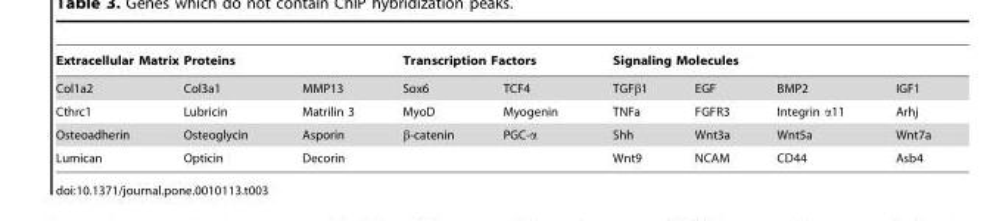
<table><thead><tr><td colspan="3">Extracellular Matrix Proteins</td><td colspan="2">Transcription Factors</td><td colspan="4">Signaling Molecules</td></tr><tr><td>Col1a2</td><td>Col3a1</td><td>MMP13</td><td>Sox6</td><td>TCF4</td><td>TGFβ1</td><td>EGF</td><td>BMP2</td><td>IGF1</td></tr></thead><tbody><tr><td>Cthrc1</td><td>Lubricin</td><td>Matrilin 3</td><td>MyoD</td><td>Myogenin</td><td>TNFa</td><td>FGFR3</td><td>Integrin α11</td><td>Arhj</td></tr><tr><td>Osteoadherin</td><td>Osteoglycin</td><td>Asporin</td><td>β-catenin</td><td>PGC-α</td><td>Shh</td><td>Wnt3a</td><td>Wnt5a</td><td>Wnt7a</td></tr><tr><td>Lumican</td><td>Opticin</td><td>Decorin</td><td></td><td></td><td>Wnt9</td><td>NCAM</td><td>CD44</td><td>Asb4</td></tr></tbody></table>